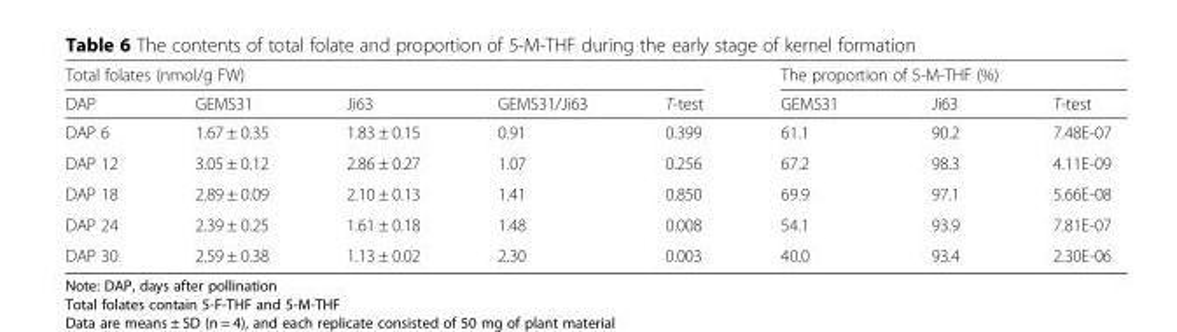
<table><thead><tr><td colspan="5">Total folates (nmol/g FW)</td><td colspan="3">The proportion of 5-M-THF (%)</td></tr><tr><td>DAP</td><td>GEMS31</td><td>Ji63</td><td>GEMS31/Ji63</td><td>T-test</td><td>GEMS31</td><td>Ji63</td><td>T-test</td></tr></thead><tbody><tr><td>DAP 6</td><td>1.67 ± 0.35</td><td>1.83 ± 0.15</td><td>0.91</td><td>0.399</td><td>61.1</td><td>90.2</td><td>7.48E-07</td></tr><tr><td>DAP 12</td><td>3.05 ± 0.12</td><td>2.86 ± 0.27</td><td>1.07</td><td>0.256</td><td>67.2</td><td>98.3</td><td>4.11E-09</td></tr><tr><td>DAP 18</td><td>2.89 ± 0.09</td><td>2.10 ± 0.13</td><td>1.41</td><td>0.850</td><td>69.9</td><td>97.1</td><td>5.66E-08</td></tr><tr><td>DAP 24</td><td>2.39 ± 0.25</td><td>1.61 ± 0.18</td><td>1.48</td><td>0.008</td><td>54.1</td><td>93.9</td><td>7.81E-07</td></tr><tr><td>DAP 30</td><td>2.59 ± 0.38</td><td>1.13 ± 0.02</td><td>2.30</td><td>0.003</td><td>40.0</td><td>93.4</td><td>2.30E-06</td></tr></tbody></table>